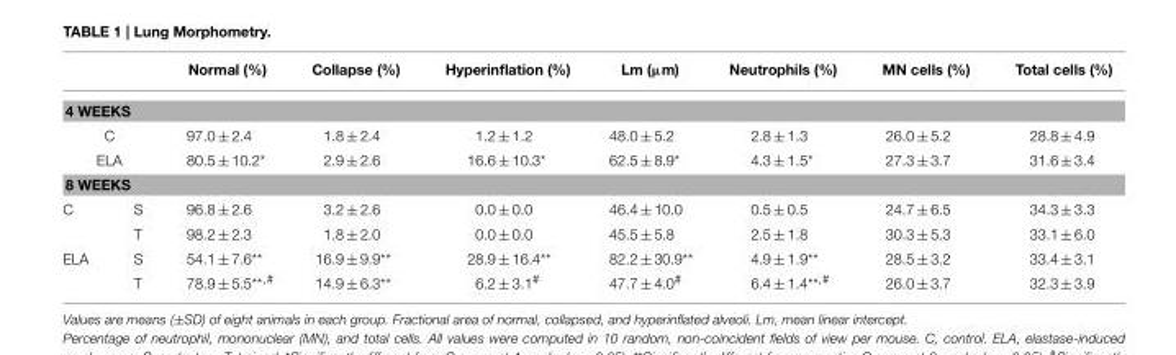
<table><thead><tr><td></td><td></td><td>Normal (%)</td><td>Collapse (%)</td><td>Hyperinflation (%)</td><td>Lm (µm)</td><td>Neutrophils (%)</td><td>MN cells (%)</td><td>Total cells (%)</td></tr></thead><tbody><tr><td colspan="9">4 WEEKS</td></tr><tr><td colspan="2">C</td><td>97.0 ± 2.4</td><td>1.8 ± 2.4</td><td>1.2 ± 1.2</td><td>48.0 ± 5.2</td><td>2.8 ± 1.3</td><td>26.0 ± 5.2</td><td>28.8 ± 4.9</td></tr><tr><td colspan="2">ELA</td><td>80.5 ± 10.2*</td><td>2.9 ± 2.6</td><td>16.6 ± 10.3*</td><td>62.5 ± 8.9*</td><td>4.3 ± 1.5*</td><td>27.3 ± 3.7</td><td>31.6 ± 3.4</td></tr><tr><td colspan="9">8 WEEKS</td></tr><tr><td rowspan="2">C</td><td>S</td><td>96.8 ± 2.6</td><td>3.2 ± 2.6</td><td>0.0 ± 0.0</td><td>46.4 ± 10.0</td><td>0.5 ± 0.5</td><td>24.7 ± 6.5</td><td>34.3 ± 3.3</td></tr><tr><td>T</td><td>98.2 ± 2.3</td><td>1.8 ± 2.0</td><td>0.0 ± 0.0</td><td>45.5 ± 5.8</td><td>2.5 ± 1.8</td><td>30.3 ± 5.3</td><td>33.1 ± 6.0</td></tr><tr><td rowspan="2">ELA</td><td>S</td><td>54.1 ± 7.6**</td><td>16.9 ± 9.9**</td><td>28.9 ± 16.4**</td><td>82.2 ± 30.9**</td><td>4.9 ± 1.9**</td><td>28.5 ± 3.2</td><td>33.4 ± 3.1</td></tr><tr><td>T</td><td>78.9 ± 5.5<sup>**,#</sup></td><td>14.9 ± 6.3**</td><td>6.2 ± 3.1<sup>#</sup></td><td>47.7 ± 4.0<sup>#</sup></td><td>6.4 ± 1.4<sup>**,#</sup></td><td>26.0 ± 3.7</td><td>32.3 ± 3.9</td></tr></tbody></table>